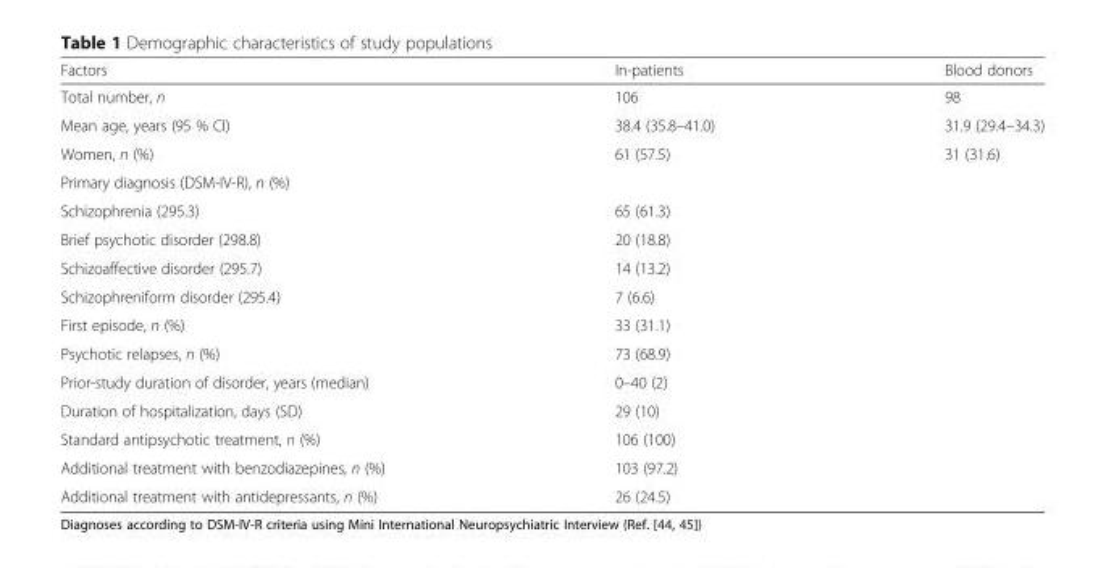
<table><thead><tr><td>Factors</td><td>In-patients</td><td>Blood donors</td></tr></thead><tbody><tr><td>Total number, n</td><td>106</td><td>98</td></tr><tr><td>Mean age, years (95 % CI)</td><td>38.4 (35.8–41.0)</td><td>31.9 (29.4–34.3)</td></tr><tr><td>Women, n (%)</td><td>61 (57.5)</td><td>31 (31.6)</td></tr><tr><td colspan="3">Primary diagnosis (DSM-IV-R), n (%)</td></tr><tr><td>Schizophrenia (295.3)</td><td>65 (61.3)</td><td></td></tr><tr><td>Brief psychotic disorder (298.8)</td><td>20 (18.8)</td><td></td></tr><tr><td>Schizoaffective disorder (295.7)</td><td>14 (13.2)</td><td></td></tr><tr><td>Schizophreniform disorder (295.4)</td><td>7 (6.6)</td><td></td></tr><tr><td>First episode, n (%)</td><td>33 (31.1)</td><td></td></tr><tr><td>Psychotic relapses, n (%)</td><td>73 (68.9)</td><td></td></tr><tr><td>Prior-study duration of disorder, years (median)</td><td>0–40 (2)</td><td></td></tr><tr><td>Duration of hospitalization, days (SD)</td><td>29 (10)</td><td></td></tr><tr><td>Standard antipsychotic treatment, n (%)</td><td>106 (100)</td><td></td></tr><tr><td>Additional treatment with benzodiazepines, n (%)</td><td>103 (97.2)</td><td></td></tr><tr><td>Additional treatment with antidepressants, n (%)</td><td>26 (24.5)</td><td></td></tr></tbody></table>